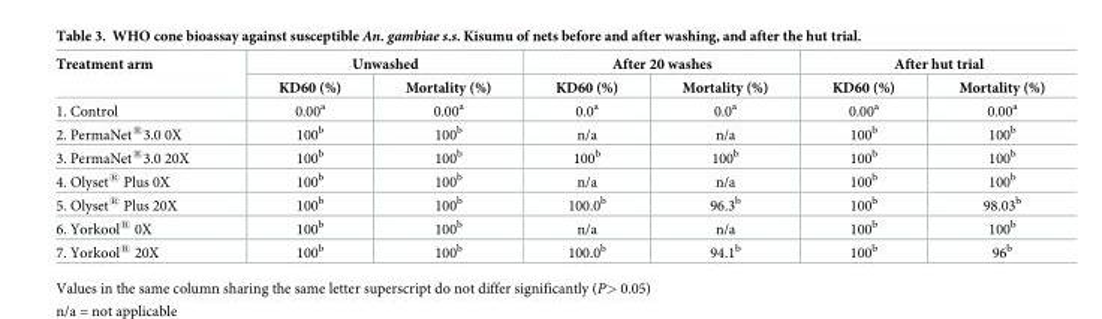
<table><thead><tr><td rowspan="2">Treatment arm</td><td colspan="2">Unwashed</td><td colspan="2">After 20 washes</td><td colspan="2">After hut trial</td></tr><tr><td>KD60 (%)</td><td>Mortality (%)</td><td>KD60 (%)</td><td>Mortality (%)</td><td>KD60 (%)</td><td>Mortality (%)</td></tr></thead><tbody><tr><td>1. Control</td><td>0.00<sup>a</sup></td><td>0.00<sup>a</sup></td><td>0.0<sup>a</sup></td><td>0.0<sup>a</sup></td><td>0.00<sup>a</sup></td><td>0.00<sup>a</sup></td></tr><tr><td>2. PermaNet<sup>®</sup>3.0 0X</td><td>100<sup>b</sup></td><td>100<sup>b</sup></td><td>n/a</td><td>n/a</td><td>100<sup>b</sup></td><td>100<sup>b</sup></td></tr><tr><td>3. PermaNet<sup>®</sup>3.0 20X</td><td>100<sup>b</sup></td><td>100<sup>b</sup></td><td>100<sup>b</sup></td><td>100<sup>b</sup></td><td>100<sup>b</sup></td><td>100<sup>b</sup></td></tr><tr><td>4. Olyset<sup>®</sup> Plus 0X</td><td>100<sup>b</sup></td><td>100<sup>b</sup></td><td>n/a</td><td>n/a</td><td>100<sup>b</sup></td><td>100<sup>b</sup></td></tr><tr><td>5. Olyset<sup>®</sup> Plus 20X</td><td>100<sup>b</sup></td><td>100<sup>b</sup></td><td>100.0<sup>b</sup></td><td>96.3<sup>b</sup></td><td>100<sup>b</sup></td><td>98.03<sup>b</sup></td></tr><tr><td>6. Yorkool<sup>®</sup> 0X</td><td>100<sup>b</sup></td><td>100<sup>b</sup></td><td>n/a</td><td>n/a</td><td>100<sup>b</sup></td><td>100<sup>b</sup></td></tr><tr><td>7. Yorkool<sup>®</sup> 20X</td><td>100<sup>b</sup></td><td>100<sup>b</sup></td><td>100.0<sup>b</sup></td><td>94.1<sup>b</sup></td><td>100<sup>b</sup></td><td>96<sup>b</sup></td></tr></tbody></table>